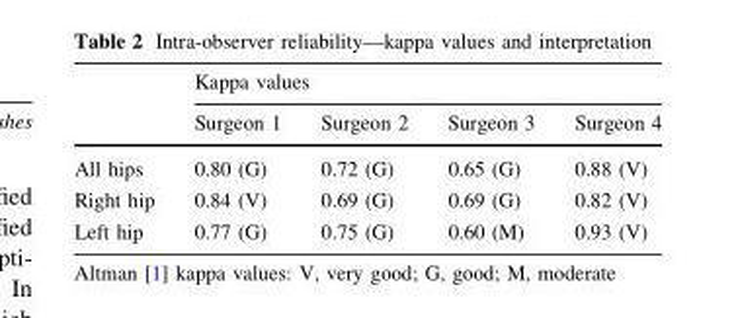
<table><thead><tr><td rowspan="2"></td><td colspan="4">Kappa values</td></tr><tr><td>Surgeon 1</td><td>Surgeon 2</td><td>Surgeon 3</td><td>Surgeon 4</td></tr></thead><tbody><tr><td>All hips</td><td>0.80 (G)</td><td>0.72 (G)</td><td>0.65 (G)</td><td>0.88 (V)</td></tr><tr><td>Right hip</td><td>0.84 (V)</td><td>0.69 (G)</td><td>0.69 (G)</td><td>0.82 (V)</td></tr><tr><td>Left hip</td><td>0.77 (G)</td><td>0.75 (G)</td><td>0.60 (M)</td><td>0.93 (V)</td></tr></tbody></table>